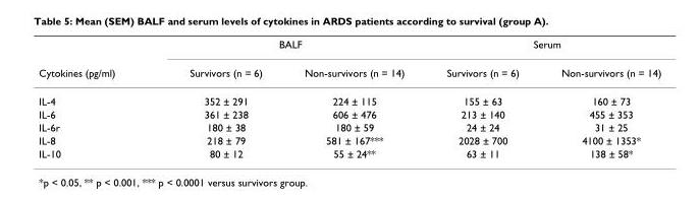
<table><thead><tr><td rowspan="2">Cytokines (pg/ml)</td><td colspan="2">BALF</td><td colspan="2">Serum</td></tr><tr><td>Survivors (n = 6)</td><td>Non-survivors (n = 14)</td><td>Survivors (n = 6)</td><td>Non-survivors (n = 14)</td></tr></thead><tbody><tr><td>IL-4</td><td>352 ± 291</td><td>224 ± 115</td><td>155 ± 63</td><td>160 ± 73</td></tr><tr><td>IL-6</td><td>361 ± 238</td><td>606 ± 476</td><td>213 ± 140</td><td>455 ± 353</td></tr><tr><td>IL-6r</td><td>180 ± 38</td><td>180 ± 59</td><td>24 ± 24</td><td>31 ± 25</td></tr><tr><td>IL-8</td><td>218 ± 79</td><td>581 ± 167***</td><td>2028 ± 700</td><td>4100 ± 1353*</td></tr><tr><td>IL-10</td><td>80 ± 12</td><td>55 ± 24**</td><td>63 ± 11</td><td>138 ± 58*</td></tr></tbody></table>